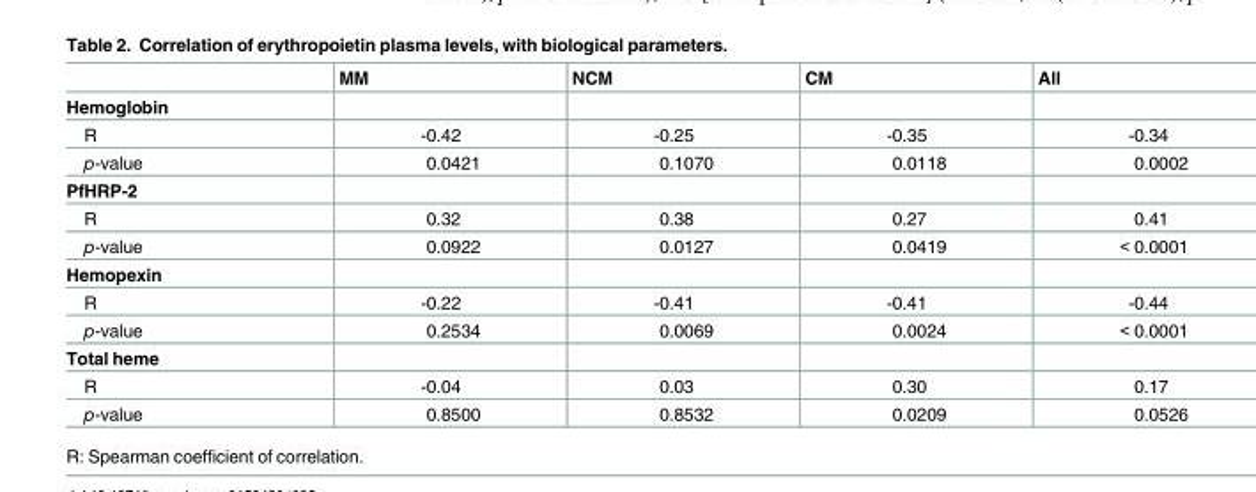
<table><thead><tr><td></td><td>MM</td><td>NCM</td><td>CM</td><td>All</td></tr></thead><tbody><tr><td colspan="5">Hemoglobin</td></tr><tr><td>R</td><td>-0.42</td><td>-0.25</td><td>-0.35</td><td>-0.34</td></tr><tr><td>p-value</td><td>0.0421</td><td>0.1070</td><td>0.0118</td><td>0.0002</td></tr><tr><td colspan="5">PfHRP-2</td></tr><tr><td>R</td><td>0.32</td><td>0.38</td><td>0.27</td><td>0.41</td></tr><tr><td>p-value</td><td>0.0922</td><td>0.0127</td><td>0.0419</td><td>&lt; 0.0001</td></tr><tr><td colspan="5">Hemopexin</td></tr><tr><td>R</td><td>-0.22</td><td>-0.41</td><td>-0.41</td><td>-0.44</td></tr><tr><td>p-value</td><td>0.2534</td><td>0.0069</td><td>0.0024</td><td>&lt; 0.0001</td></tr><tr><td colspan="5">Total heme</td></tr><tr><td>R</td><td>-0.04</td><td>0.03</td><td>0.30</td><td>0.17</td></tr><tr><td>p-value</td><td>0.8500</td><td>0.8532</td><td>0.0209</td><td>0.0526</td></tr></tbody></table>